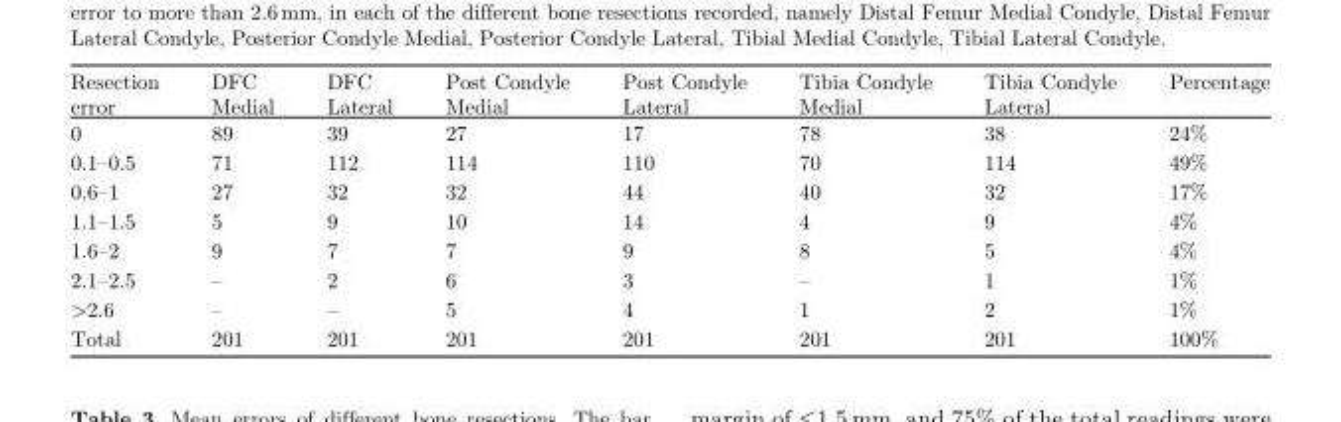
<table><thead><tr><td>Resection error</td><td>DFC Medial</td><td>DFC Lateral</td><td>Post Condyle Medial</td><td>Post Condyle Lateral</td><td>Tibia Condyle Medial</td><td>Tibia Condyle Lateral</td><td>Percentage</td></tr></thead><tbody><tr><td>0</td><td>89</td><td>39</td><td>27</td><td>17</td><td>78</td><td>38</td><td>24%</td></tr><tr><td>0.1–0.5</td><td>71</td><td>112</td><td>114</td><td>110</td><td>70</td><td>114</td><td>49%</td></tr><tr><td>0.6–1</td><td>27</td><td>32</td><td>32</td><td>44</td><td>40</td><td>32</td><td>17%</td></tr><tr><td>1.1–1.5</td><td>5</td><td>9</td><td>10</td><td>14</td><td>4</td><td>9</td><td>4%</td></tr><tr><td>1.6–2</td><td>9</td><td>7</td><td>7</td><td>9</td><td>8</td><td>5</td><td>4%</td></tr><tr><td>2.1–2.5</td><td>–</td><td>2</td><td>6</td><td>3</td><td>–</td><td>1</td><td>1%</td></tr><tr><td>&gt;2.6</td><td>–</td><td>–</td><td>5</td><td>4</td><td>1</td><td>2</td><td>1%</td></tr><tr><td>Total</td><td>201</td><td>201</td><td>201</td><td>201</td><td>201</td><td>201</td><td>100%</td></tr></tbody></table>